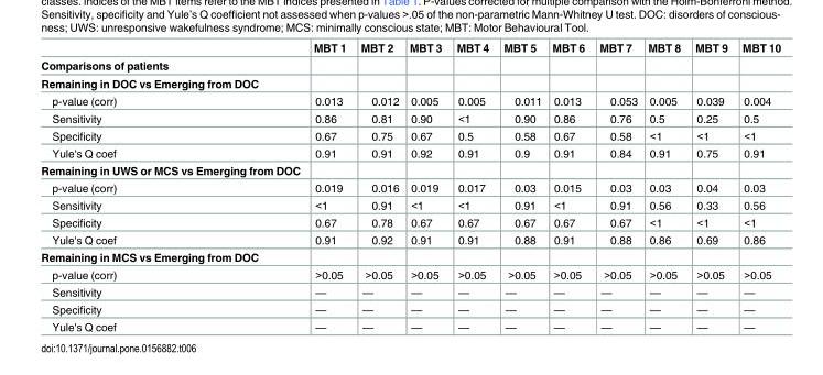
<table><thead><tr><td rowspan="2">Comparisons of patients</td><td rowspan="2">MBT 1</td><td rowspan="2">MBT 2</td><td rowspan="2">MBT 3</td><td rowspan="2">MBT 4</td><td rowspan="2">MBT 5</td><td rowspan="2">MBT 6</td><td rowspan="2">MBT 7</td><td rowspan="2">MBT 8</td><td rowspan="2">MBT 9</td><td rowspan="2">MBT 10</td></tr><tr></tr></thead><tbody><tr><td colspan="11">Remaining in DOC vs Emerging from DOC</td></tr><tr><td>p-value (corr)</td><td>0.013</td><td>0.012</td><td>0.005</td><td>0.005</td><td>0.011</td><td>0.013</td><td>0.053</td><td>0.005</td><td>0.039</td><td>0.004</td></tr><tr><td>Sensitivity</td><td>0.86</td><td>0.81</td><td>0.90</td><td>&lt;1</td><td>0.90</td><td>0.86</td><td>0.76</td><td>0.5</td><td>0.25</td><td>0.5</td></tr><tr><td>Specificity</td><td>0.67</td><td>0.75</td><td>0.67</td><td>0.5</td><td>0.58</td><td>0.67</td><td>0.58</td><td>&lt;1</td><td>&lt;1</td><td>&lt;1</td></tr><tr><td>Yule&#x27;s Q coef</td><td>0.91</td><td>0.91</td><td>0.92</td><td>0.91</td><td>0.9</td><td>0.91</td><td>0.84</td><td>0.91</td><td>0.75</td><td>0.91</td></tr><tr><td colspan="11">Remaining in UWS or MCS vs Emerging from DOC</td></tr><tr><td>p-value (corr)</td><td>0.019</td><td>0.016</td><td>0.019</td><td>0.017</td><td>0.03</td><td>0.015</td><td>0.03</td><td>0.03</td><td>0.04</td><td>0.03</td></tr><tr><td>Sensitivity</td><td>&lt;1</td><td>0.91</td><td>&lt;1</td><td>&lt;1</td><td>0.91</td><td>&lt;1</td><td>0.91</td><td>0.56</td><td>0.33</td><td>0.56</td></tr><tr><td>Specificity</td><td>0.67</td><td>0.78</td><td>0.67</td><td>0.67</td><td>0.67</td><td>0.67</td><td>0.67</td><td>&lt;1</td><td>&lt;1</td><td>&lt;1</td></tr><tr><td>Yule&#x27;s Q coef</td><td>0.91</td><td>0.92</td><td>0.91</td><td>0.91</td><td>0.88</td><td>0.91</td><td>0.88</td><td>0.86</td><td>0.69</td><td>0.86</td></tr><tr><td colspan="11">Remaining in MCS vs Emerging from DOC</td></tr><tr><td>p-value (corr)</td><td>&gt;0.05</td><td>&gt;0.05</td><td>&gt;0.05</td><td>&gt;0.05</td><td>&gt;0.05</td><td>&gt;0.05</td><td>&gt;0.05</td><td>&gt;0.05</td><td>&gt;0.05</td><td>&gt;0.05</td></tr><tr><td>Sensitivity</td><td>—</td><td>—</td><td>—</td><td>—</td><td>—</td><td>—</td><td>—</td><td>—</td><td>—</td><td>—</td></tr><tr><td>Specificity</td><td>—</td><td>—</td><td>—</td><td>—</td><td>—</td><td>—</td><td>—</td><td>—</td><td>—</td><td>—</td></tr><tr><td>Yule&#x27;s Q coef</td><td>—</td><td>—</td><td>—</td><td>—</td><td>—</td><td>—</td><td>—</td><td>—</td><td>—</td><td>—</td></tr></tbody></table>